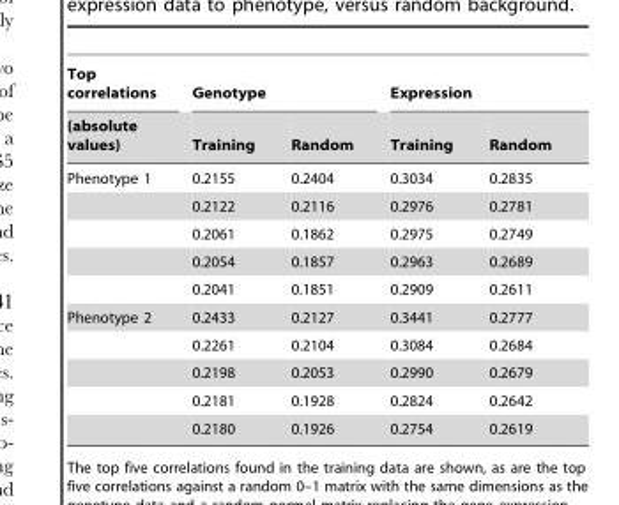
<table><thead><tr><td rowspan="2">Top correlations (absolute values)</td><td colspan="2">Genotype</td><td colspan="2">Expression</td></tr><tr><td>Training</td><td>Random</td><td>Training</td><td>Random</td></tr></thead><tbody><tr><td rowspan="5">Phenotype 1</td><td>0.2155</td><td>0.2404</td><td>0.3034</td><td>0.2835</td></tr><tr><td>0.2122</td><td>0.2116</td><td>0.2976</td><td>0.2781</td></tr><tr><td>0.2061</td><td>0.1862</td><td>0.2975</td><td>0.2749</td></tr><tr><td>0.2054</td><td>0.1857</td><td>0.2963</td><td>0.2689</td></tr><tr><td>0.2041</td><td>0.1851</td><td>0.2909</td><td>0.2611</td></tr><tr><td rowspan="5">Phenotype 2</td><td>0.2433</td><td>0.2127</td><td>0.3441</td><td>0.2777</td></tr><tr><td>0.2261</td><td>0.2104</td><td>0.3084</td><td>0.2684</td></tr><tr><td>0.2198</td><td>0.2053</td><td>0.2990</td><td>0.2679</td></tr><tr><td>0.2181</td><td>0.1928</td><td>0.2824</td><td>0.2642</td></tr><tr><td>0.2180</td><td>0.1926</td><td>0.2754</td><td>0.2619</td></tr></tbody></table>